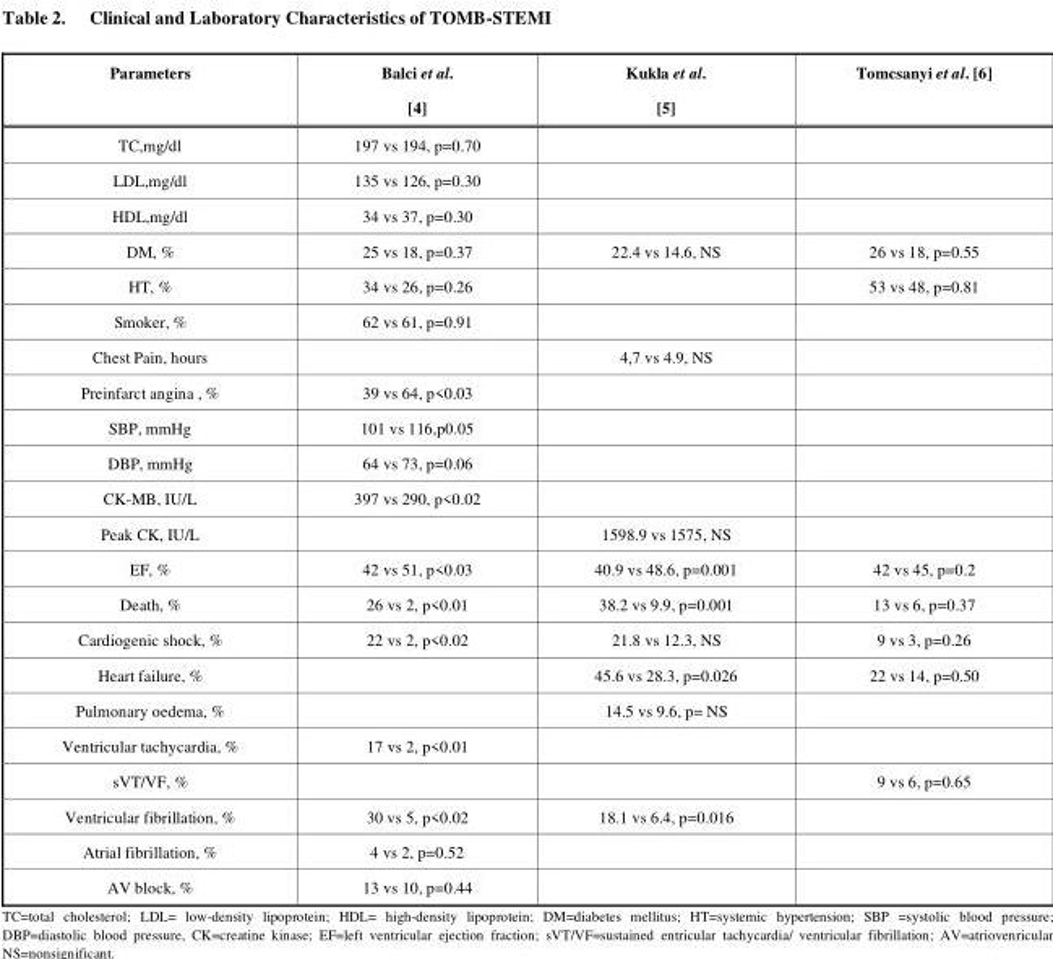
<table><thead><tr><td>Parameters</td><td>Balci et al. [4]</td><td>Kukla et al. [5]</td><td>Tomcsanyi et al. [6]</td></tr></thead><tbody><tr><td>TC,mg/dl</td><td>197 vs 194, p=0.70</td><td></td><td></td></tr><tr><td>LDL,mg/dl</td><td>135 vs 126, p=0.30</td><td></td><td></td></tr><tr><td>HDL,mg/dl</td><td>34 vs 37, p=0.30</td><td></td><td></td></tr><tr><td>DM, %</td><td>25 vs 18, p=0.37</td><td>22.4 vs 14.6, NS</td><td>26 vs 18, p=0.55</td></tr><tr><td>HT, %</td><td>34 vs 26, p=0.26</td><td></td><td>53 vs 48, p=0.81</td></tr><tr><td>Smoker, %</td><td>62 vs 61, p=0.91</td><td></td><td></td></tr><tr><td>Chest Pain, hours</td><td></td><td>4,7 vs 4.9, NS</td><td></td></tr><tr><td>Preinfarct angina , %</td><td>39 vs 64, p&lt;0.03</td><td></td><td></td></tr><tr><td>SBP, mmHg</td><td>101 vs 116,p0.05</td><td></td><td></td></tr><tr><td>DBP, mmHg</td><td>64 vs 73, p=0.06</td><td></td><td></td></tr><tr><td>CK-MB, IU/L</td><td>397 vs 290, p&lt;0.02</td><td></td><td></td></tr><tr><td>Peak CK, IU/L</td><td></td><td>1598.9 vs 1575, NS</td><td></td></tr><tr><td>EF, %</td><td>42 vs 51, p&lt;0.03</td><td>40.9 vs 48.6, p=0.001</td><td>42 vs 45, p=0.2</td></tr><tr><td>Death, %</td><td>26 vs 2, p&lt;0.01</td><td>38.2 vs 9.9, p=0.001</td><td>13 vs 6, p=0.37</td></tr><tr><td>Cardiogenic shock, %</td><td>22 vs 2, p&lt;0.02</td><td>21.8 vs 12.3, NS</td><td>9 vs 3, p=0.26</td></tr><tr><td>Heart failure, %</td><td></td><td>45.6 vs 28.3, p=0.026</td><td>22 vs 14, p=0.50</td></tr><tr><td>Pulmonary oedema, %</td><td></td><td>14.5 vs 9.6, p= NS</td><td></td></tr><tr><td>Ventricular tachycardia, %</td><td>17 vs 2, p&lt;0.01</td><td></td><td></td></tr><tr><td>sVT/VF, %</td><td></td><td></td><td>9 vs 6, p=0.65</td></tr><tr><td>Ventricular fibrillation, %</td><td>30 vs 5, p&lt;0.02</td><td>18.1 vs 6.4, p=0.016</td><td></td></tr><tr><td>Atrial fibrillation, %</td><td>4 vs 2, p=0.52</td><td></td><td></td></tr><tr><td>AV block, %</td><td>13 vs 10, p=0.44</td><td></td><td></td></tr></tbody></table>